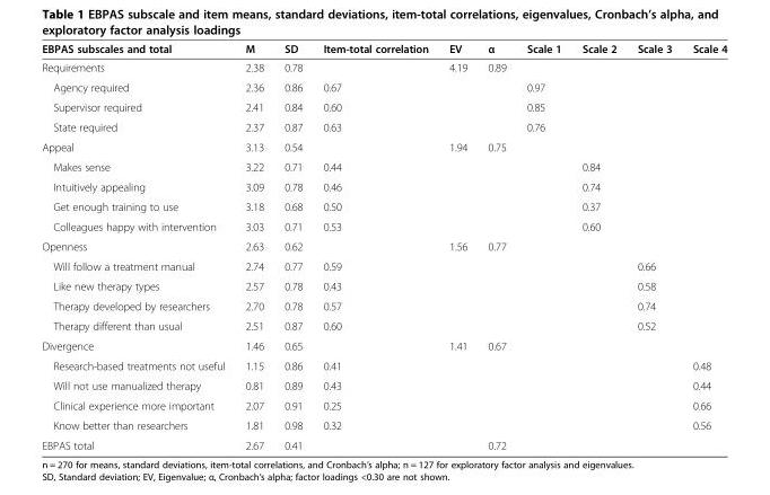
<table><thead><tr><td>EBPAS subscales and total</td><td>M</td><td>SD</td><td>Item-total correlation</td><td>EV</td><td>α</td><td>Scale 1</td><td>Scale 2</td><td>Scale 3</td><td>Scale 4</td></tr></thead><tbody><tr><td>Requirements</td><td>2.38</td><td>0.78</td><td></td><td>4.19</td><td>0.89</td><td></td><td></td><td></td><td></td></tr><tr><td>Agency required</td><td>2.36</td><td>0.86</td><td>0.67</td><td></td><td></td><td>0.97</td><td></td><td></td><td></td></tr><tr><td>Supervisor required</td><td>2.41</td><td>0.84</td><td>0.60</td><td></td><td></td><td>0.85</td><td></td><td></td><td></td></tr><tr><td>State required</td><td>2.37</td><td>0.87</td><td>0.63</td><td></td><td></td><td>0.76</td><td></td><td></td><td></td></tr><tr><td>Appeal</td><td>3.13</td><td>0.54</td><td></td><td>1.94</td><td>0.75</td><td></td><td></td><td></td><td></td></tr><tr><td>Makes sense</td><td>3.22</td><td>0.71</td><td>0.44</td><td></td><td></td><td></td><td>0.84</td><td></td><td></td></tr><tr><td>Intuitively appealing</td><td>3.09</td><td>0.78</td><td>0.46</td><td></td><td></td><td></td><td>0.74</td><td></td><td></td></tr><tr><td>Get enough training to use</td><td>3.18</td><td>0.68</td><td>0.50</td><td></td><td></td><td></td><td>0.37</td><td></td><td></td></tr><tr><td>Colleagues happy with intervention</td><td>3.03</td><td>0.71</td><td>0.53</td><td></td><td></td><td></td><td>0.60</td><td></td><td></td></tr><tr><td>Openness</td><td>2.63</td><td>0.62</td><td></td><td>1.56</td><td>0.77</td><td></td><td></td><td></td><td></td></tr><tr><td>Will follow a treatment manual</td><td>2.74</td><td>0.77</td><td>0.59</td><td></td><td></td><td></td><td></td><td>0.66</td><td></td></tr><tr><td>Like new therapy types</td><td>2.57</td><td>0.78</td><td>0.43</td><td></td><td></td><td></td><td></td><td>0.58</td><td></td></tr><tr><td>Therapy developed by researchers</td><td>2.70</td><td>0.78</td><td>0.57</td><td></td><td></td><td></td><td></td><td>0.74</td><td></td></tr><tr><td>Therapy different than usual</td><td>2.51</td><td>0.87</td><td>0.60</td><td></td><td></td><td></td><td></td><td>0.52</td><td></td></tr><tr><td>Divergence</td><td>1.46</td><td>0.65</td><td></td><td>1.41</td><td>0.67</td><td></td><td></td><td></td><td></td></tr><tr><td>Research-based treatments not useful</td><td>1.15</td><td>0.86</td><td>0.41</td><td></td><td></td><td></td><td></td><td></td><td>0.48</td></tr><tr><td>Will not use manualized therapy</td><td>0.81</td><td>0.89</td><td>0.43</td><td></td><td></td><td></td><td></td><td></td><td>0.44</td></tr><tr><td>Clinical experience more important</td><td>2.07</td><td>0.91</td><td>0.25</td><td></td><td></td><td></td><td></td><td></td><td>0.66</td></tr><tr><td>Know better than researchers</td><td>1.81</td><td>0.98</td><td>0.32</td><td></td><td></td><td></td><td></td><td></td><td>0.56</td></tr><tr><td>EBPAS total</td><td>2.67</td><td>0.41</td><td></td><td></td><td>0.72</td><td></td><td></td><td></td><td></td></tr></tbody></table>